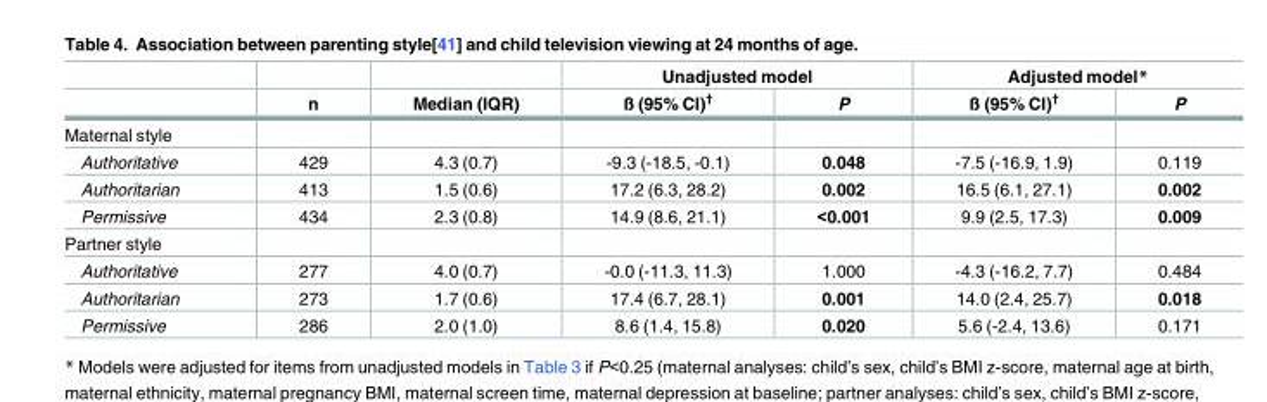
<table><thead><tr><td rowspan="2"></td><td rowspan="2">n</td><td rowspan="2">Median (IQR)</td><td colspan="2">Unadjusted model</td><td colspan="2">Adjusted model*</td></tr><tr><td>ß (95% CI)<sup>†</sup></td><td>P</td><td>ß (95% CI)<sup>†</sup></td><td>P</td></tr></thead><tbody><tr><td colspan="7">Maternal style</td></tr><tr><td>Authoritative</td><td>429</td><td>4.3 (0.7)</td><td>-9.3 (-18.5, -0.1)</td><td>0.048</td><td>-7.5 (-16.9, 1.9)</td><td>0.119</td></tr><tr><td>Authoritarian</td><td>413</td><td>1.5 (0.6)</td><td>17.2 (6.3, 28.2)</td><td>0.002</td><td>16.5 (6.1, 27.1)</td><td>0.002</td></tr><tr><td>Permissive</td><td>434</td><td>2.3 (0.8)</td><td>14.9 (8.6, 21.1)</td><td>&lt;0.001</td><td>9.9 (2.5, 17.3)</td><td>0.009</td></tr><tr><td colspan="7">Partner style</td></tr><tr><td>Authoritative</td><td>277</td><td>4.0 (0.7)</td><td>-0.0 (-11.3, 11.3)</td><td>1.000</td><td>-4.3 (-16.2, 7.7)</td><td>0.484</td></tr><tr><td>Authoritarian</td><td>273</td><td>1.7 (0.6)</td><td>17.4 (6.7, 28.1)</td><td>0.001</td><td>14.0 (2.4, 25.7)</td><td>0.018</td></tr><tr><td>Permissive</td><td>286</td><td>2.0 (1.0)</td><td>8.6 (1.4, 15.8)</td><td>0.020</td><td>5.6 (-2.4, 13.6)</td><td>0.171</td></tr></tbody></table>